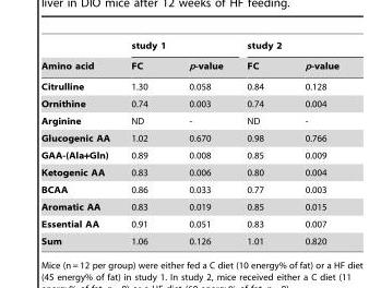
<table><thead><tr><td rowspan="2">Amino acid</td><td colspan="2">study 1</td><td colspan="2">study 2</td></tr><tr><td>FC</td><td>p-value</td><td>FC</td><td>p-value</td></tr></thead><tbody><tr><td>Citrulline</td><td>1.30</td><td>0.058</td><td>0.84</td><td>0.128</td></tr><tr><td>Ornithine</td><td>0.74</td><td>0.003</td><td>0.74</td><td>0.004</td></tr><tr><td>Arginine</td><td>ND</td><td>-</td><td>ND</td><td>-</td></tr><tr><td>Glucogenic AA</td><td>1.02</td><td>0.670</td><td>0.98</td><td>0.766</td></tr><tr><td>GAA-(Ala+Gln)</td><td>0.89</td><td>0.008</td><td>0.85</td><td>0.009</td></tr><tr><td>Ketogenic AA</td><td>0.83</td><td>0.006</td><td>0.80</td><td>0.004</td></tr><tr><td>BCAA</td><td>0.86</td><td>0.033</td><td>0.77</td><td>0.003</td></tr><tr><td>Aromatic AA</td><td>0.83</td><td>0.019</td><td>0.85</td><td>0.015</td></tr><tr><td>Essential AA</td><td>0.91</td><td>0.051</td><td>0.83</td><td>0.007</td></tr><tr><td>Sum</td><td>1.06</td><td>0.126</td><td>1.01</td><td>0.820</td></tr></tbody></table>